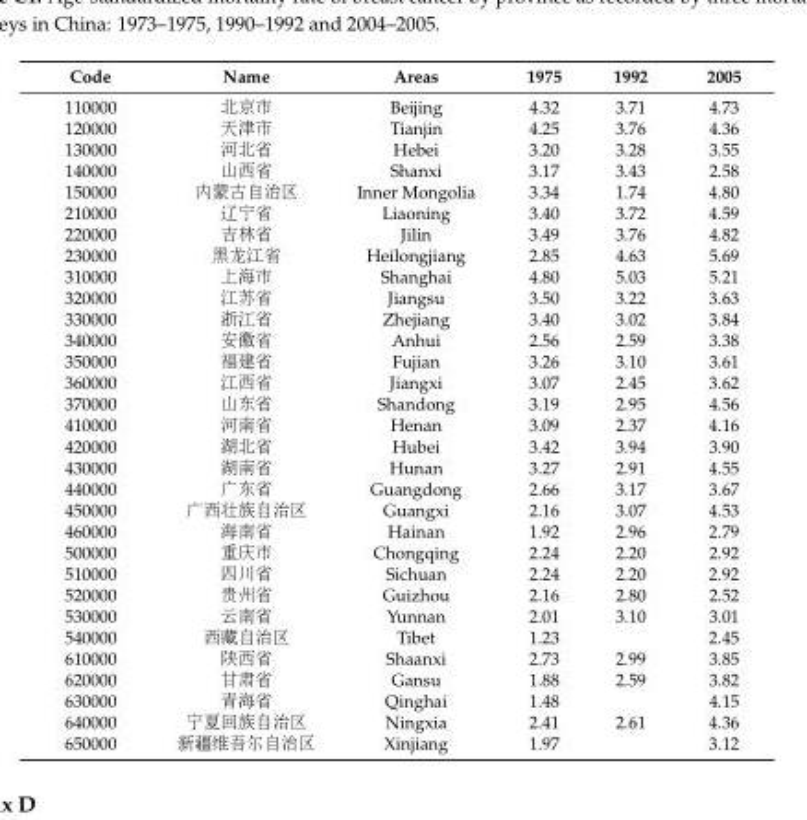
<table><thead><tr><td>Code</td><td>Name</td><td>Areas</td><td>1975</td><td>1992</td><td>2005</td></tr></thead><tbody><tr><td>110000</td><td>北京市</td><td>Beijing</td><td>4.32</td><td>3.71</td><td>4.73</td></tr><tr><td>120000</td><td>天津市</td><td>Tianjin</td><td>4.25</td><td>3.76</td><td>4.36</td></tr><tr><td>130000</td><td>河北省</td><td>Hebei</td><td>3.20</td><td>3.28</td><td>3.55</td></tr><tr><td>140000</td><td>山西省</td><td>Shanxi</td><td>3.17</td><td>3.43</td><td>2.58</td></tr><tr><td>150000</td><td>内蒙古自治区</td><td>Inner Mongolia</td><td>3.34</td><td>1.74</td><td>4.80</td></tr><tr><td>210000</td><td>辽宁省</td><td>Liaoning</td><td>3.40</td><td>3.72</td><td>4.59</td></tr><tr><td>220000</td><td>吉林省</td><td>Jilin</td><td>3.49</td><td>3.76</td><td>4.82</td></tr><tr><td>230000</td><td>黑龙江省</td><td>Heilongjiang</td><td>2.85</td><td>4.63</td><td>5.69</td></tr><tr><td>310000</td><td>上海市</td><td>Shanghai</td><td>4.80</td><td>5.03</td><td>5.21</td></tr><tr><td>320000</td><td>江苏省</td><td>Jiangsu</td><td>3.50</td><td>3.22</td><td>3.63</td></tr><tr><td>330000</td><td>浙江省</td><td>Zhejiang</td><td>3.40</td><td>3.02</td><td>3.84</td></tr><tr><td>340000</td><td>安徽省</td><td>Anhui</td><td>2.56</td><td>2.59</td><td>3.38</td></tr><tr><td>350000</td><td>福建省</td><td>Fujian</td><td>3.26</td><td>3.10</td><td>3.61</td></tr><tr><td>360000</td><td>江西省</td><td>Jiangxi</td><td>3.07</td><td>2.45</td><td>3.62</td></tr><tr><td>370000</td><td>山东省</td><td>Shandong</td><td>3.19</td><td>2.95</td><td>4.56</td></tr><tr><td>410000</td><td>河南省</td><td>Henan</td><td>3.09</td><td>2.37</td><td>4.16</td></tr><tr><td>420000</td><td>湖北省</td><td>Hubei</td><td>3.42</td><td>3.94</td><td>3.90</td></tr><tr><td>430000</td><td>湖南省</td><td>Hunan</td><td>3.27</td><td>2.91</td><td>4.55</td></tr><tr><td>440000</td><td>广东省</td><td>Guangdong</td><td>2.66</td><td>3.17</td><td>3.67</td></tr><tr><td>450000</td><td>广西壮族自治区</td><td>Guangxi</td><td>2.16</td><td>3.07</td><td>4.53</td></tr><tr><td>460000</td><td>海南省</td><td>Hainan</td><td>1.92</td><td>2.96</td><td>2.79</td></tr><tr><td>500000</td><td>重庆市</td><td>Chongqing</td><td>2.24</td><td>2.20</td><td>2.92</td></tr><tr><td>510000</td><td>四川省</td><td>Sichuan</td><td>2.24</td><td>2.20</td><td>2.92</td></tr><tr><td>520000</td><td>贵州省</td><td>Guizhou</td><td>2.16</td><td>2.80</td><td>2.52</td></tr><tr><td>530000</td><td>云南省</td><td>Yunnan</td><td>2.01</td><td>3.10</td><td>3.01</td></tr><tr><td>540000</td><td>西藏自治区</td><td>Tibet</td><td>1.23</td><td></td><td>2.45</td></tr><tr><td>610000</td><td>陕西省</td><td>Shaanxi</td><td>2.73</td><td>2.99</td><td>3.85</td></tr><tr><td>620000</td><td>甘肃省</td><td>Gansu</td><td>1.88</td><td>2.59</td><td>3.82</td></tr><tr><td>630000</td><td>青海省</td><td>Qinghai</td><td>1.48</td><td></td><td>4.15</td></tr><tr><td>640000</td><td>宁夏回族自治区</td><td>Ningxia</td><td>2.41</td><td>2.61</td><td>4.36</td></tr><tr><td>650000</td><td>新疆维吾尔自治区</td><td>Xinjiang</td><td>1.97</td><td></td><td>3.12</td></tr></tbody></table>